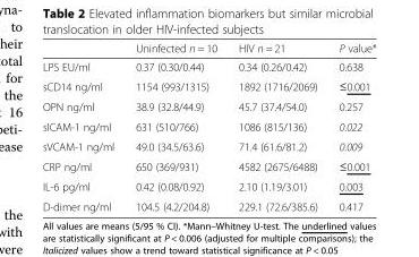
<table><thead><tr><td></td><td>Uninfected n = 10</td><td>HIV n = 21</td><td>P value*</td></tr></thead><tbody><tr><td>LPS EU/ml</td><td>0.37 (0.30/0.44)</td><td>0.34 (0.26/0.42)</td><td>0.638</td></tr><tr><td>sCD14 ng/ml</td><td>1154 (993/1315)</td><td>1892 (1716/2069)</td><td>≤0.001</td></tr><tr><td>OPN ng/ml</td><td>38.9 (32.8/44.9)</td><td>45.7 (37.4/54.0)</td><td>0.257</td></tr><tr><td>sICAM-1 ng/ml</td><td>631 (510/766)</td><td>1086 (815/136)</td><td>0.022</td></tr><tr><td>sVCAM-1 ng/ml</td><td>49.0 (34.5/63.6)</td><td>71.4 (61.6/81.2)</td><td>0.009</td></tr><tr><td>CRP ng/ml</td><td>650 (369/931)</td><td>4582 (2675/6488)</td><td>≤0.001</td></tr><tr><td>IL-6 pg/ml</td><td>0.42 (0.08/0.92)</td><td>2.10 (1.19/3.01)</td><td>0.003</td></tr><tr><td>D-dimer ng/ml</td><td>104.5 (4.2/204.8)</td><td>229.1 (72.6/385.6)</td><td>0.417</td></tr></tbody></table>